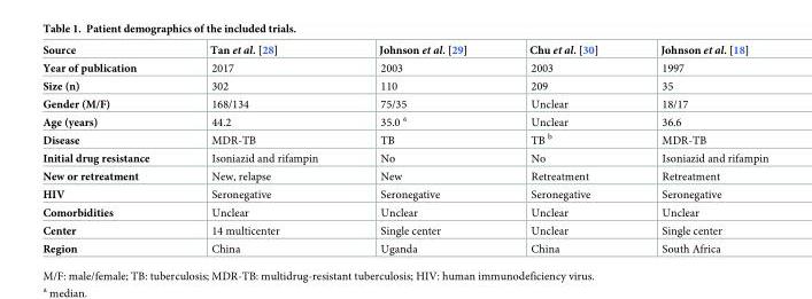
<table><thead><tr><td>Source</td><td>Tan et al. [28]</td><td>Johnson et al. [29]</td><td>Chu et al. [30]</td><td>Johnson et al. [18]</td></tr></thead><tbody><tr><td>Year of publication</td><td>2017</td><td>2003</td><td>2003</td><td>1997</td></tr><tr><td>Size (n)</td><td>302</td><td>110</td><td>209</td><td>35</td></tr><tr><td>Gender (M/F)</td><td>168/134</td><td>75/35</td><td>Unclear</td><td>18/17</td></tr><tr><td>Age (years)</td><td>44.2</td><td>35.0 <sup>a</sup></td><td>Unclear</td><td>36.6</td></tr><tr><td>Disease</td><td>MDR-TB</td><td>TB</td><td>TB <sup>b</sup></td><td>MDR-TB</td></tr><tr><td>Initial drug resistance</td><td>Isoniazid and rifampin</td><td>No</td><td>No</td><td>Isoniazid and rifampin</td></tr><tr><td>New or retreatment</td><td>New, relapse</td><td>New</td><td>Retreatment</td><td>Retreatment</td></tr><tr><td>HIV</td><td>Seronegative</td><td>Seronegative</td><td>Seronegative</td><td>Seronegative</td></tr><tr><td>Comorbidities</td><td>Unclear</td><td>Unclear</td><td>Unclear</td><td>Unclear</td></tr><tr><td>Center</td><td>14 multicenter</td><td>Single center</td><td>Unclear</td><td>Single center</td></tr><tr><td>Region</td><td>China</td><td>Uganda</td><td>China</td><td>South Africa</td></tr></tbody></table>